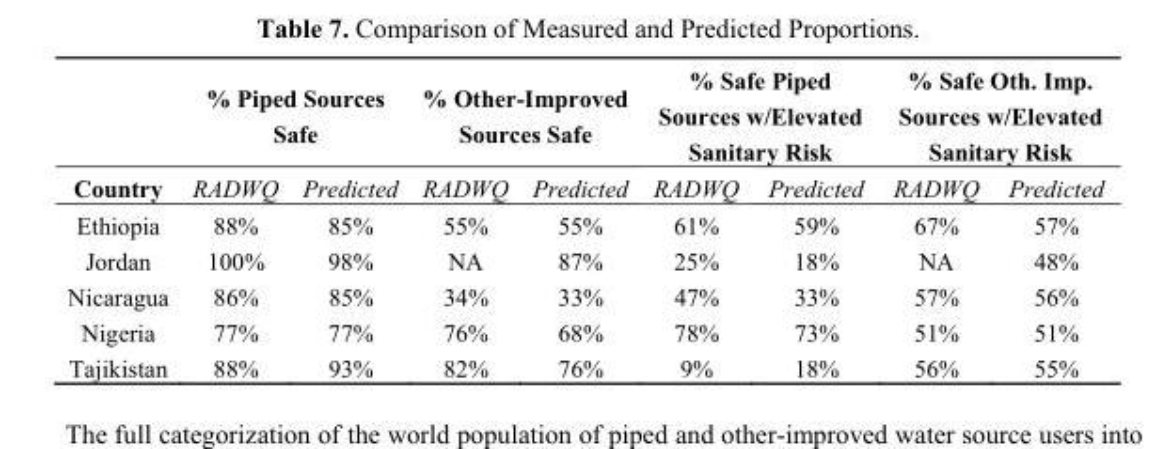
<table><thead><tr><td rowspan="2">Country</td><td colspan="2">% Piped Sources Safe</td><td colspan="2">% Other-Improved Sources Safe</td><td colspan="2">% Safe Piped Sources w/Elevated Sanitary Risk</td><td colspan="2">% Safe Oth. Imp. Sources w/Elevated Sanitary Risk</td></tr><tr><td>RADWQ</td><td>Predicted</td><td>RADWQ</td><td>Predicted</td><td>RADWQ</td><td>Predicted</td><td>RADWQ</td><td>Predicted</td></tr></thead><tbody><tr><td>Ethiopia</td><td>88%</td><td>85%</td><td>55%</td><td>55%</td><td>61%</td><td>59%</td><td>67%</td><td>57%</td></tr><tr><td>Jordan</td><td>100%</td><td>98%</td><td>NA</td><td>87%</td><td>25%</td><td>18%</td><td>NA</td><td>48%</td></tr><tr><td>Nicaragua</td><td>86%</td><td>85%</td><td>34%</td><td>33%</td><td>47%</td><td>33%</td><td>57%</td><td>56%</td></tr><tr><td>Nigeria</td><td>77%</td><td>77%</td><td>76%</td><td>68%</td><td>78%</td><td>73%</td><td>51%</td><td>51%</td></tr><tr><td>Tajikistan</td><td>88%</td><td>93%</td><td>82%</td><td>76%</td><td>9%</td><td>18%</td><td>56%</td><td>55%</td></tr></tbody></table>